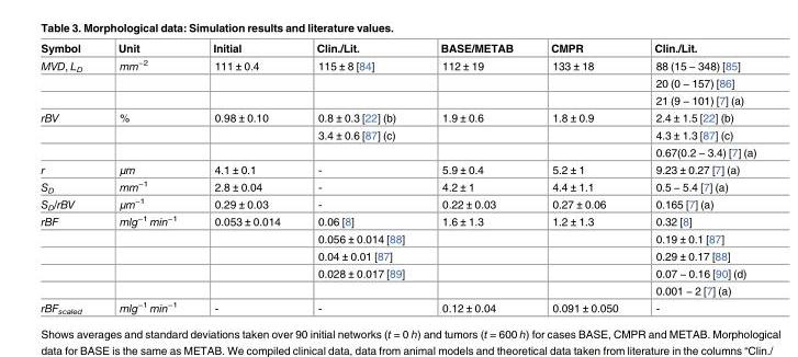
<table><thead><tr><td>Symbol</td><td>Unit</td><td>Initial</td><td>Clin./Lit.</td><td>BASE/METAB</td><td>CMPR</td><td>Clin./Lit.</td></tr></thead><tbody><tr><td rowspan="3">MVD, L<sub>D</sub></td><td>mm<sup>−2</sup></td><td>111 ± 0.4</td><td>115 ± 8 [84]</td><td>112 ± 19</td><td>133 ± 18</td><td>88 (15 − 348) [85]</td></tr><tr><td></td><td></td><td></td><td></td><td></td><td>20 (0 − 157) [86]</td></tr><tr><td></td><td></td><td></td><td></td><td></td><td>21 (9 − 101) [7] (a)</td></tr><tr><td rowspan="3">rBV</td><td>%</td><td>0.98 ± 0.10</td><td>0.8 ± 0.3 [22] (b)</td><td>1.9 ± 0.6</td><td>1.8 ± 0.9</td><td>2.4 ± 1.5 [22] (b)</td></tr><tr><td></td><td></td><td>3.4 ± 0.6 [87] (c)</td><td></td><td></td><td>4.3 ± 1.3 [87] (c)</td></tr><tr><td></td><td></td><td></td><td></td><td></td><td>0.67(0.2 − 3.4) [7] (a)</td></tr><tr><td>r</td><td>μm</td><td>4.1 ± 0.1</td><td>-</td><td>5.9 ± 0.4</td><td>5.2 ± 1</td><td>9.23 ± 0.27 [7] (a)</td></tr><tr><td>S<sub>D</sub></td><td>mm<sup>−1</sup></td><td>2.8 ± 0.04</td><td>-</td><td>4.2 ± 1</td><td>4.4 ± 1.1</td><td>0.5 − 5.4 [7] (a)</td></tr><tr><td>S<sub>D</sub>/rBV</td><td>μm<sup>−1</sup></td><td>0.29 ± 0.03</td><td>-</td><td>0.22 ± 0.03</td><td>0.27 ± 0.06</td><td>0.165 [7] (a)</td></tr><tr><td rowspan="5">rBF</td><td>mlg<sup>−1</sup> min<sup>−1</sup></td><td>0.053 ± 0.014</td><td>0.06 [8]</td><td>1.6 ± 1.3</td><td>1.2 ± 1.3</td><td>0.32 [8]</td></tr><tr><td></td><td></td><td>0.056 ± 0.014 [88]</td><td></td><td></td><td>0.19 ± 0.1 [87]</td></tr><tr><td></td><td></td><td>0.04 ± 0.01 [87]</td><td></td><td></td><td>0.29 ± 0.17 [88]</td></tr><tr><td></td><td></td><td>0.028 ± 0.017 [89]</td><td></td><td></td><td>0.07 − 0.16 [90] (d)</td></tr><tr><td></td><td></td><td></td><td></td><td></td><td>0.001 − 2 [7] (a)</td></tr><tr><td>rBF<sub>scaled</sub></td><td>mlg<sup>−1</sup> min<sup>−1</sup></td><td>-</td><td>-</td><td>0.12 ± 0.04</td><td>0.091 ± 0.050</td><td>-</td></tr></tbody></table>